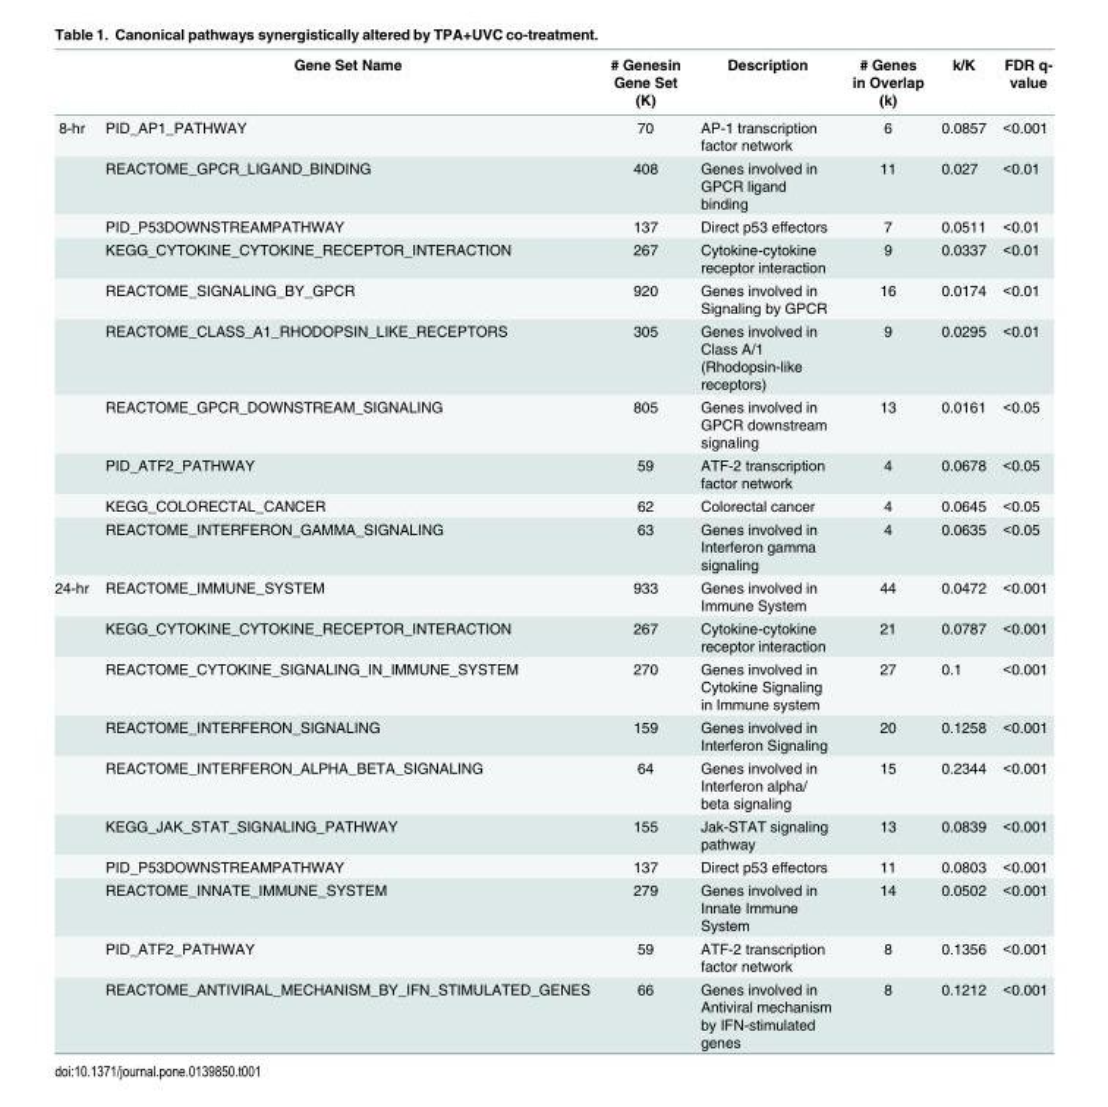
<table><thead><tr><td></td><td>Gene Set Name</td><td># Genesin Gene Set (K)</td><td>Description</td><td># Genes in Overlap (k)</td><td>k/K</td><td>FDR q- value</td></tr></thead><tbody><tr><td rowspan="10">8-hr</td><td>PID_AP1_PATHWAY</td><td>70</td><td>AP-1 transcription factor network</td><td>6</td><td>0.0857</td><td>&lt;0.001</td></tr><tr><td>REACTOME_GPCR_LIGAND_BINDING</td><td>408</td><td>Genes involved in GPCR ligand binding</td><td>11</td><td>0.027</td><td>&lt;0.01</td></tr><tr><td>PID_P53DOWNSTREAMPATHWAY</td><td>137</td><td>Direct p53 effectors</td><td>7</td><td>0.0511</td><td>&lt;0.01</td></tr><tr><td>KEGG_CYTOKINE_CYTOKINE_RECEPTOR_INTERACTION</td><td>267</td><td>Cytokine-cytokine receptor interaction</td><td>9</td><td>0.0337</td><td>&lt;0.01</td></tr><tr><td>REACTOME_SIGNALING_BY_GPCR</td><td>920</td><td>Genes involved in Signaling by GPCR</td><td>16</td><td>0.0174</td><td>&lt;0.01</td></tr><tr><td>REACTOME_CLASS_A1_RHODOPSIN_LIKE_RECEPTORS</td><td>305</td><td>Genes involved in Class A/1 (Rhodopsin-like receptors)</td><td>9</td><td>0.0295</td><td>&lt;0.01</td></tr><tr><td>REACTOME_GPCR_DOWNSTREAM_SIGNALING</td><td>805</td><td>Genes involved in GPCR downstream signaling</td><td>13</td><td>0.0161</td><td>&lt;0.05</td></tr><tr><td>PID_ATF2_PATHWAY</td><td>59</td><td>ATF-2 transcription factor network</td><td>4</td><td>0.0678</td><td>&lt;0.05</td></tr><tr><td>KEGG_COLORECTAL_CANCER</td><td>62</td><td>Colorectal cancer</td><td>4</td><td>0.0645</td><td>&lt;0.05</td></tr><tr><td>REACTOME_INTERFERON_GAMMA_SIGNALING</td><td>63</td><td>Genes involved in Interferon gamma signaling</td><td>4</td><td>0.0635</td><td>&lt;0.05</td></tr><tr><td rowspan="10">24-hr</td><td>REACTOME_IMMUNE_SYSTEM</td><td>933</td><td>Genes involved in Immune System</td><td>44</td><td>0.0472</td><td>&lt;0.001</td></tr><tr><td>KEGG_CYTOKINE_CYTOKINE_RECEPTOR_INTERACTION</td><td>267</td><td>Cytokine-cytokine receptor interaction</td><td>21</td><td>0.0787</td><td>&lt;0.001</td></tr><tr><td>REACTOME_CYTOKINE_SIGNALING_IN_IMMUNE_SYSTEM</td><td>270</td><td>Genes involved in Cytokine Signaling in Immune system</td><td>27</td><td>0.1</td><td>&lt;0.001</td></tr><tr><td>REACTOME_INTERFERON_SIGNALING</td><td>159</td><td>Genes involved in Interferon Signaling</td><td>20</td><td>0.1258</td><td>&lt;0.001</td></tr><tr><td>REACTOME_INTERFERON_ALPHA_BETA_SIGNALING</td><td>64</td><td>Genes involved in Interferon alpha/ beta signaling</td><td>15</td><td>0.2344</td><td>&lt;0.001</td></tr><tr><td>KEGG_JAK_STAT_SIGNALING_PATHWAY</td><td>155</td><td>Jak-STAT signaling pathway</td><td>13</td><td>0.0839</td><td>&lt;0.001</td></tr><tr><td>PID_P53DOWNSTREAMPATHWAY</td><td>137</td><td>Direct p53 effectors</td><td>11</td><td>0.0803</td><td>&lt;0.001</td></tr><tr><td>REACTOME_INNATE_IMMUNE_SYSTEM</td><td>279</td><td>Genes involved in Innate Immune System</td><td>14</td><td>0.0502</td><td>&lt;0.001</td></tr><tr><td>PID_ATF2_PATHWAY</td><td>59</td><td>ATF-2 transcription factor network</td><td>8</td><td>0.1356</td><td>&lt;0.001</td></tr><tr><td>REACTOME_ANTIVIRAL_MECHANISM_BY_IFN_STIMULATED_GENES</td><td>66</td><td>Genes involved in Antiviral mechanism by IFN-stimulated genes</td><td>8</td><td>0.1212</td><td>&lt;0.001</td></tr></tbody></table>